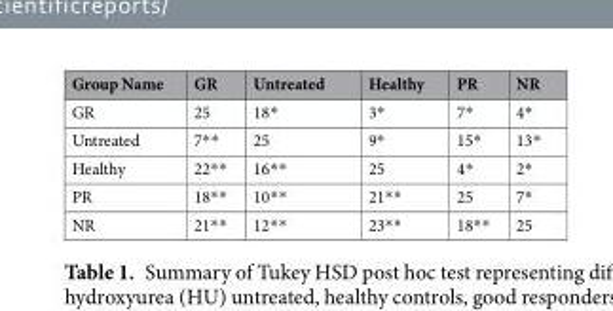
<table><thead><tr><td>Group Name</td><td>GR</td><td>Untreated</td><td>Healthy</td><td>PR</td><td>NR</td></tr></thead><tbody><tr><td>GR</td><td>25</td><td>18*</td><td>3*</td><td>7*</td><td>4*</td></tr><tr><td>Untreated</td><td>7**</td><td>25</td><td>9*</td><td>15*</td><td>13*</td></tr><tr><td>Healthy</td><td>22**</td><td>16**</td><td>25</td><td>4*</td><td>2*</td></tr><tr><td>PR</td><td>18**</td><td>10**</td><td>21**</td><td>25</td><td>7*</td></tr><tr><td>NR</td><td>21**</td><td>12**</td><td>23**</td><td>18**</td><td>25</td></tr></tbody></table>